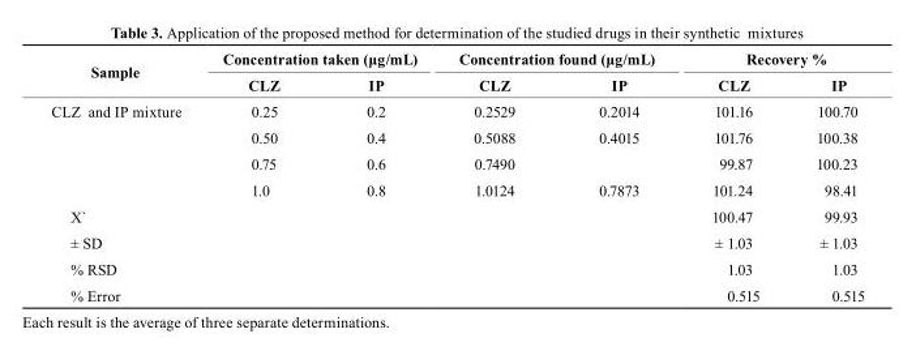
<table><thead><tr><td rowspan="2">sample</td><td colspan="2">Concentration taken (μg/mL)</td><td colspan="2">Concentration found (μg/mL)</td><td colspan="2">recovery %</td></tr><tr><td>CLZ</td><td>IP</td><td>CLZ</td><td>IP</td><td>CLZ</td><td>IP</td></tr></thead><tbody><tr><td rowspan="4">CLZ and IP mixture</td><td>0.25</td><td>0.2</td><td>0.2529</td><td>0.2014</td><td>101.16</td><td>100.70</td></tr><tr><td>0.50</td><td>0.4</td><td>0.5088</td><td>0.4015</td><td>101.76</td><td>100.38</td></tr><tr><td>0.75</td><td>0.6</td><td>0.7490</td><td></td><td>99.87</td><td>100.23</td></tr><tr><td>1.0</td><td>0.8</td><td>1.0124</td><td>0.7873</td><td>101.24</td><td>98.41</td></tr><tr><td>X`</td><td></td><td></td><td></td><td></td><td>100.47</td><td>99.93</td></tr><tr><td>± SD</td><td></td><td></td><td></td><td></td><td>± 1.03</td><td>± 1.03</td></tr><tr><td>% RSD</td><td></td><td></td><td></td><td></td><td>1.03</td><td>1.03</td></tr><tr><td>% Error</td><td></td><td></td><td></td><td></td><td>0.515</td><td>0.515</td></tr></tbody></table>